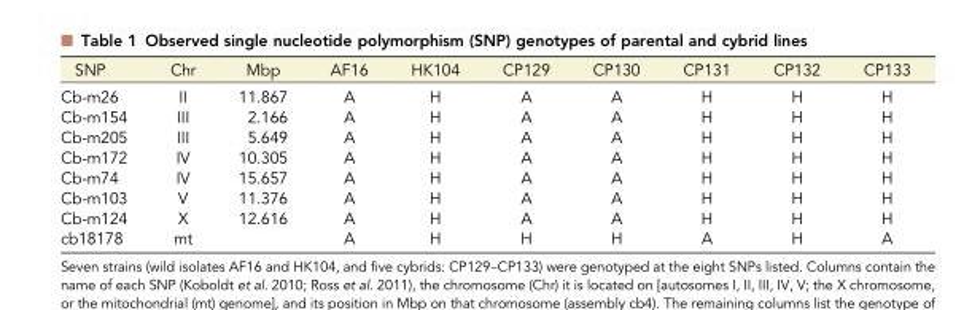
<table><thead><tr><td>SNP</td><td>Chr</td><td>Mbp</td><td>AF16</td><td>HK104</td><td>CP129</td><td>CP130</td><td>CP131</td><td>CP132</td><td>CP133</td></tr></thead><tbody><tr><td>Cb-m26</td><td>II</td><td>11.867</td><td>A</td><td>H</td><td>A</td><td>A</td><td>H</td><td>H</td><td>H</td></tr><tr><td>Cb-m154</td><td>III</td><td>2.166</td><td>A</td><td>H</td><td>A</td><td>A</td><td>H</td><td>H</td><td>H</td></tr><tr><td>Cb-m205</td><td>III</td><td>5.649</td><td>A</td><td>H</td><td>A</td><td>A</td><td>H</td><td>H</td><td>H</td></tr><tr><td>Cb-m172</td><td>IV</td><td>10.305</td><td>A</td><td>H</td><td>A</td><td>A</td><td>H</td><td>H</td><td>H</td></tr><tr><td>Cb-m74</td><td>IV</td><td>15.657</td><td>A</td><td>H</td><td>A</td><td>A</td><td>H</td><td>H</td><td>H</td></tr><tr><td>Cb-m103</td><td>V</td><td>11.376</td><td>A</td><td>H</td><td>A</td><td>A</td><td>H</td><td>H</td><td>H</td></tr><tr><td>Cb-m124</td><td>X</td><td>12.616</td><td>A</td><td>H</td><td>A</td><td>A</td><td>H</td><td>H</td><td>H</td></tr><tr><td>cb18178</td><td>mt</td><td></td><td>A</td><td>H</td><td>H</td><td>H</td><td>A</td><td>H</td><td>A</td></tr></tbody></table>